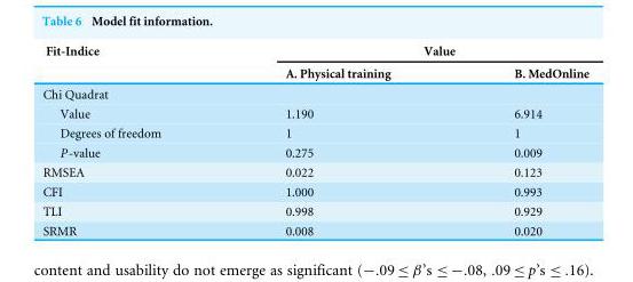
<table><thead><tr><td rowspan="2">Fit-Indice</td><td colspan="2">Value</td></tr><tr><td>A. Physical training</td><td>B. MedOnline</td></tr></thead><tbody><tr><td colspan="3">Chi Quadrat</td></tr><tr><td>Value</td><td>1.190</td><td>6.914</td></tr><tr><td>Degrees of freedom</td><td>1</td><td>1</td></tr><tr><td>P-value</td><td>0.275</td><td>0.009</td></tr><tr><td>RMSEA</td><td>0.022</td><td>0.123</td></tr><tr><td>CFI</td><td>1.000</td><td>0.993</td></tr><tr><td>TLI</td><td>0.998</td><td>0.929</td></tr><tr><td>SRMR</td><td>0.008</td><td>0.020</td></tr></tbody></table>